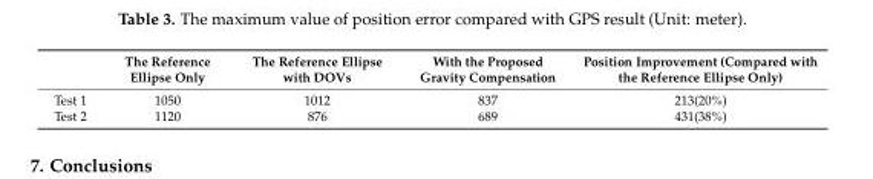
<table><thead><tr><td></td><td>The Reference Ellipse Only</td><td>The Reference Ellipse with DOVs</td><td>With the Proposed Gravity Compensation</td><td>Position Improvement (Compared with the Reference Ellipse Only)</td></tr></thead><tbody><tr><td>Test 1</td><td>1050</td><td>1012</td><td>837</td><td>213(20%)</td></tr><tr><td>Test 2</td><td>1120</td><td>876</td><td>689</td><td>431(38%)</td></tr></tbody></table>